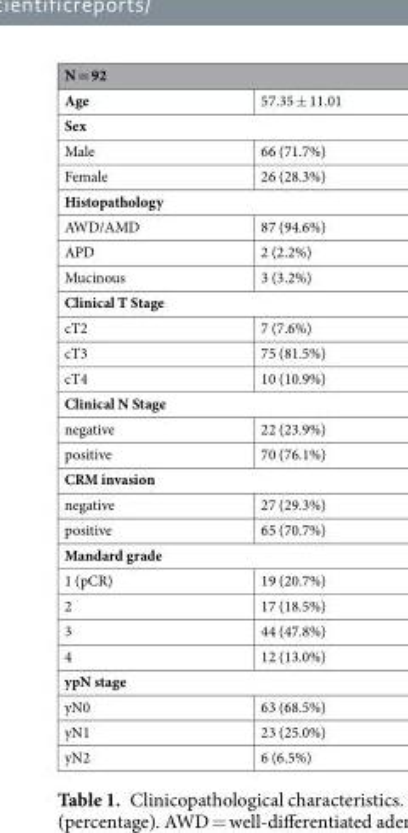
<table><thead><tr><td colspan="2">N = 92</td></tr><tr><td>Age</td><td>57.35 ± 11.01</td></tr></thead><tbody><tr><td colspan="2">Sex</td></tr><tr><td>Male</td><td>66 (71.7%)</td></tr><tr><td>Female</td><td>26 (28.3%)</td></tr><tr><td colspan="2">Histopathology</td></tr><tr><td>AWD/AMD</td><td>87 (94.6%)</td></tr><tr><td>APD</td><td>2 (2.2%)</td></tr><tr><td>Mucinous</td><td>3 (3.2%)</td></tr><tr><td colspan="2">Clinical T Stage</td></tr><tr><td>cT2</td><td>7 (7.6%)</td></tr><tr><td>cT3</td><td>75 (81.5%)</td></tr><tr><td>cT4</td><td>10 (10.9%)</td></tr><tr><td colspan="2">Clinical N Stage</td></tr><tr><td>negative</td><td>22 (23.9%)</td></tr><tr><td>positive</td><td>70 (76.1%)</td></tr><tr><td colspan="2">CRM invasion</td></tr><tr><td>negative</td><td>27 (29.3%)</td></tr><tr><td>positive</td><td>65 (70.7%)</td></tr><tr><td colspan="2">Mandard grade</td></tr><tr><td>1 (pCR)</td><td>19 (20.7%)</td></tr><tr><td>2</td><td>17 (18.5%)</td></tr><tr><td>3</td><td>44 (47.8%)</td></tr><tr><td>4</td><td>12 (13.0%)</td></tr><tr><td colspan="2">ypN stage</td></tr><tr><td>yN0</td><td>63 (68.5%)</td></tr><tr><td>yN1</td><td>23 (25.0%)</td></tr><tr><td>yN2</td><td>6 (6.5%)</td></tr></tbody></table>